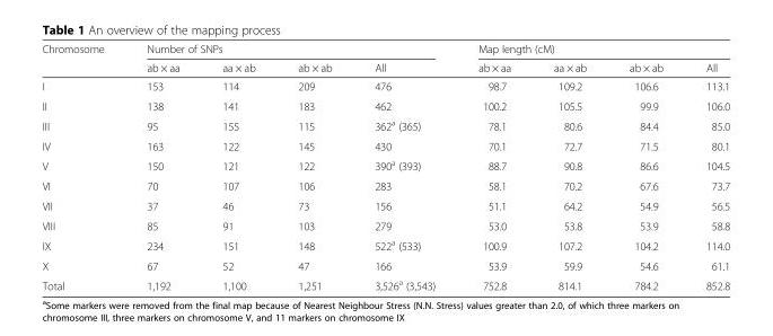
<table><thead><tr><td rowspan="2">Chromosome</td><td colspan="4">Number of SNPs</td><td colspan="4">Map length (cM)</td></tr><tr><td>ab × aa</td><td>aa × ab</td><td>ab × ab</td><td>All</td><td>ab × aa</td><td>aa × ab</td><td>ab × ab</td><td>All</td></tr></thead><tbody><tr><td>I</td><td>153</td><td>114</td><td>209</td><td>476</td><td>98.7</td><td>109.2</td><td>106.6</td><td>113.1</td></tr><tr><td>II</td><td>138</td><td>141</td><td>183</td><td>462</td><td>100.2</td><td>105.5</td><td>99.9</td><td>106.0</td></tr><tr><td>III</td><td>95</td><td>155</td><td>115</td><td>362<sup>a</sup> (365)</td><td>78.1</td><td>80.6</td><td>84.4</td><td>85.0</td></tr><tr><td>IV</td><td>163</td><td>122</td><td>145</td><td>430</td><td>70.1</td><td>72.7</td><td>71.5</td><td>80.1</td></tr><tr><td>V</td><td>150</td><td>121</td><td>122</td><td>390<sup>a</sup> (393)</td><td>88.7</td><td>90.8</td><td>86.6</td><td>104.5</td></tr><tr><td>VI</td><td>70</td><td>107</td><td>106</td><td>283</td><td>58.1</td><td>70.2</td><td>67.6</td><td>73.7</td></tr><tr><td>VII</td><td>37</td><td>46</td><td>73</td><td>156</td><td>51.1</td><td>64.2</td><td>54.9</td><td>56.5</td></tr><tr><td>VIII</td><td>85</td><td>91</td><td>103</td><td>279</td><td>53.0</td><td>53.8</td><td>53.9</td><td>58.8</td></tr><tr><td>IX</td><td>234</td><td>151</td><td>148</td><td>522<sup>a</sup> (533)</td><td>100.9</td><td>107.2</td><td>104.2</td><td>114.0</td></tr><tr><td>X</td><td>67</td><td>52</td><td>47</td><td>166</td><td>53.9</td><td>59.9</td><td>54.6</td><td>61.1</td></tr><tr><td>Total</td><td>1,192</td><td>1,100</td><td>1,251</td><td>3,526<sup>a</sup> (3,543)</td><td>752.8</td><td>814.1</td><td>784.2</td><td>852.8</td></tr></tbody></table>